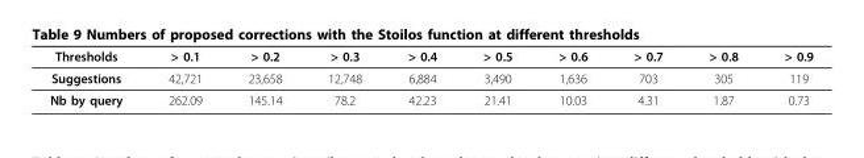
<table><thead><tr><td>Thresholds</td><td>&gt; 0.1</td><td>&gt; 0.2</td><td>&gt; 0.3</td><td>&gt; 0.4</td><td>&gt; 0.5</td><td>&gt; 0.6</td><td>&gt; 0.7</td><td>&gt; 0.8</td><td>&gt; 0.9</td></tr></thead><tbody><tr><td>Suggestions</td><td>42,721</td><td>23,658</td><td>12,748</td><td>6,884</td><td>3,490</td><td>1,636</td><td>703</td><td>305</td><td>119</td></tr><tr><td>Nb by query</td><td>262.09</td><td>145.14</td><td>78.2</td><td>42.23</td><td>21.41</td><td>10.03</td><td>4.31</td><td>1.87</td><td>0.73</td></tr></tbody></table>